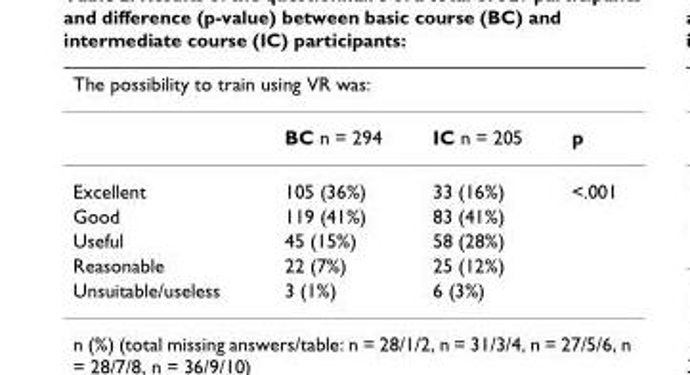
<table><thead><tr><td colspan="4">The possibility to train using VR was:</td></tr><tr><td></td><td>BC n = 294</td><td>IC n = 205</td><td>p</td></tr></thead><tbody><tr><td>Excellent</td><td>105 (36%)</td><td>33 (16%)</td><td>&lt;.001</td></tr><tr><td>Good</td><td>119 (41%)</td><td>83 (41%)</td><td></td></tr><tr><td>Useful</td><td>45 (15%)</td><td>58 (28%)</td><td></td></tr><tr><td>Reasonable</td><td>22 (7%)</td><td>25 (12%)</td><td></td></tr><tr><td>Unsuitable/useless</td><td>3 (1%)</td><td>6 (3%)</td><td></td></tr></tbody></table>